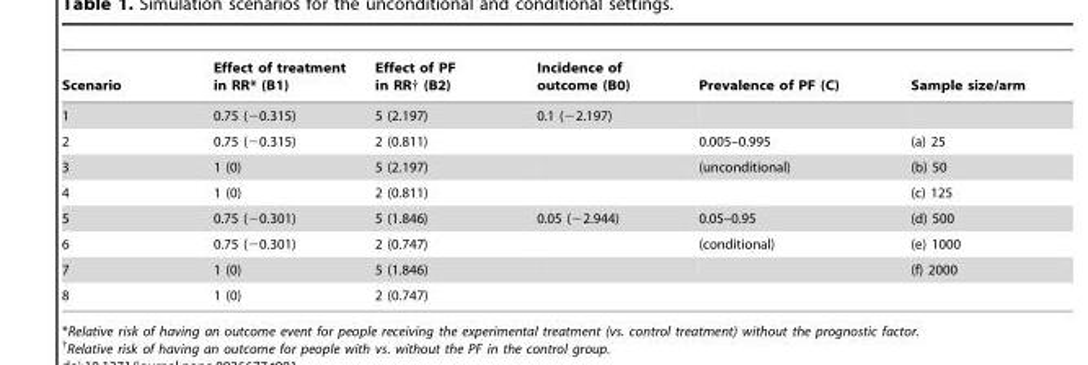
<table><thead><tr><td>Scenario</td><td>Effect of treatment in RR* (B1)</td><td>Effect of PF in RR† (B2)</td><td>Incidence of outcome (B0)</td><td>Prevalence of PF (C)</td><td>Sample size/arm</td></tr></thead><tbody><tr><td>1</td><td>0.75 (−0.315)</td><td>5 (2.197)</td><td>0.1 (−2.197)</td><td></td><td></td></tr><tr><td>2</td><td>0.75 (−0.315)</td><td>2 (0.811)</td><td></td><td>0.005–0.995</td><td>(a) 25</td></tr><tr><td>3</td><td>1 (0)</td><td>5 (2.197)</td><td></td><td>(unconditional)</td><td>(b) 50</td></tr><tr><td>4</td><td>1 (0)</td><td>2 (0.811)</td><td></td><td></td><td>(c) 125</td></tr><tr><td>5</td><td>0.75 (−0.301)</td><td>5 (1.846)</td><td>0.05 (−2.944)</td><td>0.05–0.95</td><td>(d) 500</td></tr><tr><td>6</td><td>0.75 (−0.301)</td><td>2 (0.747)</td><td></td><td>(conditional)</td><td>(e) 1000</td></tr><tr><td>7</td><td>1 (0)</td><td>5 (1.846)</td><td></td><td></td><td>(f) 2000</td></tr><tr><td>8</td><td>1 (0)</td><td>2 (0.747)</td><td></td><td></td><td></td></tr></tbody></table>